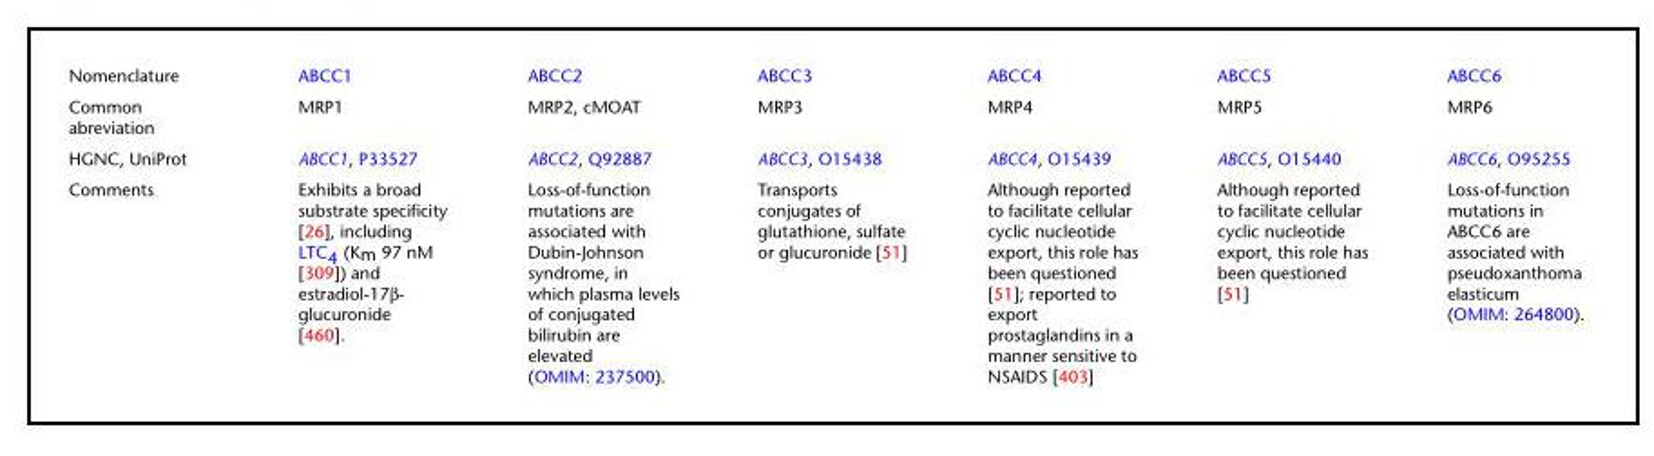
<table><tbody><tr><td>Nomenclature</td><td>ABCC1</td><td>ABCC2</td><td>ABCC3</td><td>ABCC4</td><td>ABCC5</td><td>ABCC6</td></tr><tr><td>Common abreviation</td><td>MRP1</td><td>MRP2, cMOAT</td><td>MRP3</td><td>MRP4</td><td>MRP5</td><td>MRP6</td></tr><tr><td>HGNC, UniProt</td><td>ABCC1, P33527</td><td>ABCC2, Q92887</td><td>ABCC3, O15438</td><td>ABCC4, O15439</td><td>ABCC5, O15440</td><td>ABCC6, O95255</td></tr><tr><td>Comments</td><td>Exhibits a broad substrate specificity [26], including LTC<sub>4</sub> (K<sub>m</sub> 97 nM [309]) and estradiol-17β- glucuronide [460].</td><td>Loss-of-function mutations are associated with Dubin-Johnson syndrome, in which plasma levels of conjugated bilirubin are elevated (OMIM: 237500).</td><td>Transports conjugates of glutathione, sulfate or glucuronide [51]</td><td>Although reported to facilitate cellular cyclic nucleotide export, this role has been questioned [51]; reported to export prostaglandins in a manner sensitive to NSAIDS [403]</td><td>Although reported to facilitate cellular cyclic nucleotide export, this role has been questioned [51]</td><td>Loss-of-function mutations in ABCC6 are associated with pseudoxanthoma elasticum (OMIM: 264800).</td></tr></tbody></table>